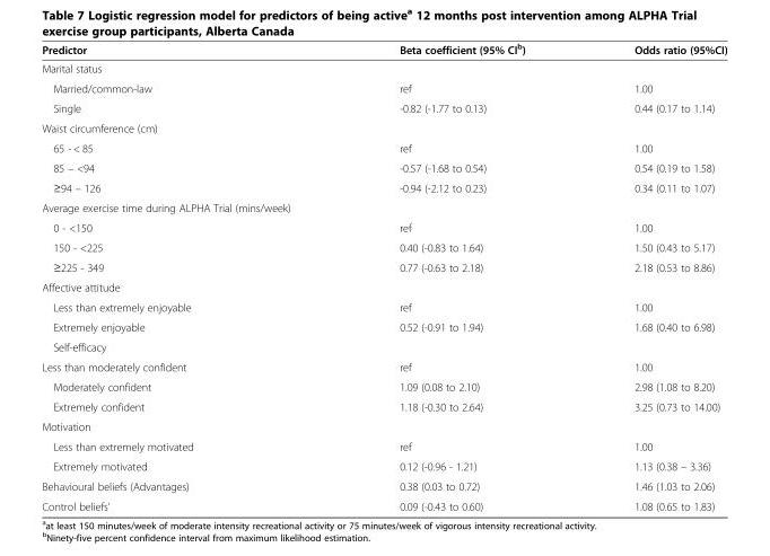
<table><thead><tr><td>Predictor</td><td>Beta coefficient (95% CI<sup>b</sup>)</td><td>Odds ratio (95%CI)</td></tr></thead><tbody><tr><td colspan="3">Marital status</td></tr><tr><td>Married/common-law</td><td>ref</td><td>1.00</td></tr><tr><td>Single</td><td>-0.82 (-1.77 to 0.13)</td><td>0.44 (0.17 to 1.14)</td></tr><tr><td colspan="3">Waist circumference (cm)</td></tr><tr><td>65 - &lt; 85</td><td>ref</td><td>1.00</td></tr><tr><td>85 – &lt;94</td><td>-0.57 (-1.68 to 0.54)</td><td>0.54 (0.19 to 1.58)</td></tr><tr><td>≥94 – 126</td><td>-0.94 (-2.12 to 0.23)</td><td>0.34 (0.11 to 1.07)</td></tr><tr><td colspan="3">Average exercise time during ALPHA Trial (mins/week)</td></tr><tr><td>0 - &lt;150</td><td>ref</td><td>1.00</td></tr><tr><td>150 - &lt;225</td><td>0.40 (-0.83 to 1.64)</td><td>1.50 (0.43 to 5.17)</td></tr><tr><td>≥225 - 349</td><td>0.77 (-0.63 to 2.18)</td><td>2.18 (0.53 to 8.86)</td></tr><tr><td colspan="3">Affective attitude</td></tr><tr><td>Less than extremely enjoyable</td><td>ref</td><td>1.00</td></tr><tr><td>Extremely enjoyable</td><td>0.52 (-0.91 to 1.94)</td><td>1.68 (0.40 to 6.98)</td></tr><tr><td colspan="3">Self-efficacy</td></tr><tr><td>Less than moderately confident</td><td>ref</td><td>1.00</td></tr><tr><td>Moderately confident</td><td>1.09 (0.08 to 2.10)</td><td>2.98 (1.08 to 8.20)</td></tr><tr><td>Extremely confident</td><td>1.18 (-0.30 to 2.64)</td><td>3.25 (0.73 to 14.00)</td></tr><tr><td colspan="3">Motivation</td></tr><tr><td>Less than extremely motivated</td><td>ref</td><td>1.00</td></tr><tr><td>Extremely motivated</td><td>0.12 (-0.96 - 1.21)</td><td>1.13 (0.38 – 3.36)</td></tr><tr><td>Behavioural beliefs (Advantages)</td><td>0.38 (0.03 to 0.72)</td><td>1.46 (1.03 to 2.06)</td></tr><tr><td>Control beliefs’</td><td>0.09 (-0.43 to 0.60)</td><td>1.08 (0.65 to 1.83)</td></tr></tbody></table>